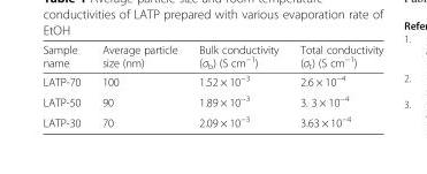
<table><thead><tr><td>Sample name</td><td>Average particle size (nm)</td><td>Bulk conductivity (σ<sub>b</sub>) (S cm<sup>−1</sup>)</td><td>Total conductivity (σ<sub>t</sub>) (S cm<sup>−1</sup>)</td></tr></thead><tbody><tr><td>LATP-70</td><td>100</td><td>1.52 × 10<sup>−3</sup></td><td>2.6 × 10<sup>−4</sup></td></tr><tr><td>LATP-50</td><td>90</td><td>1.89 × 10<sup>−3</sup></td><td>3. 3 × 10<sup>−4</sup></td></tr><tr><td>LATP-30</td><td>70</td><td>2.09 × 10<sup>−3</sup></td><td>3.63 × 10<sup>−4</sup></td></tr></tbody></table>